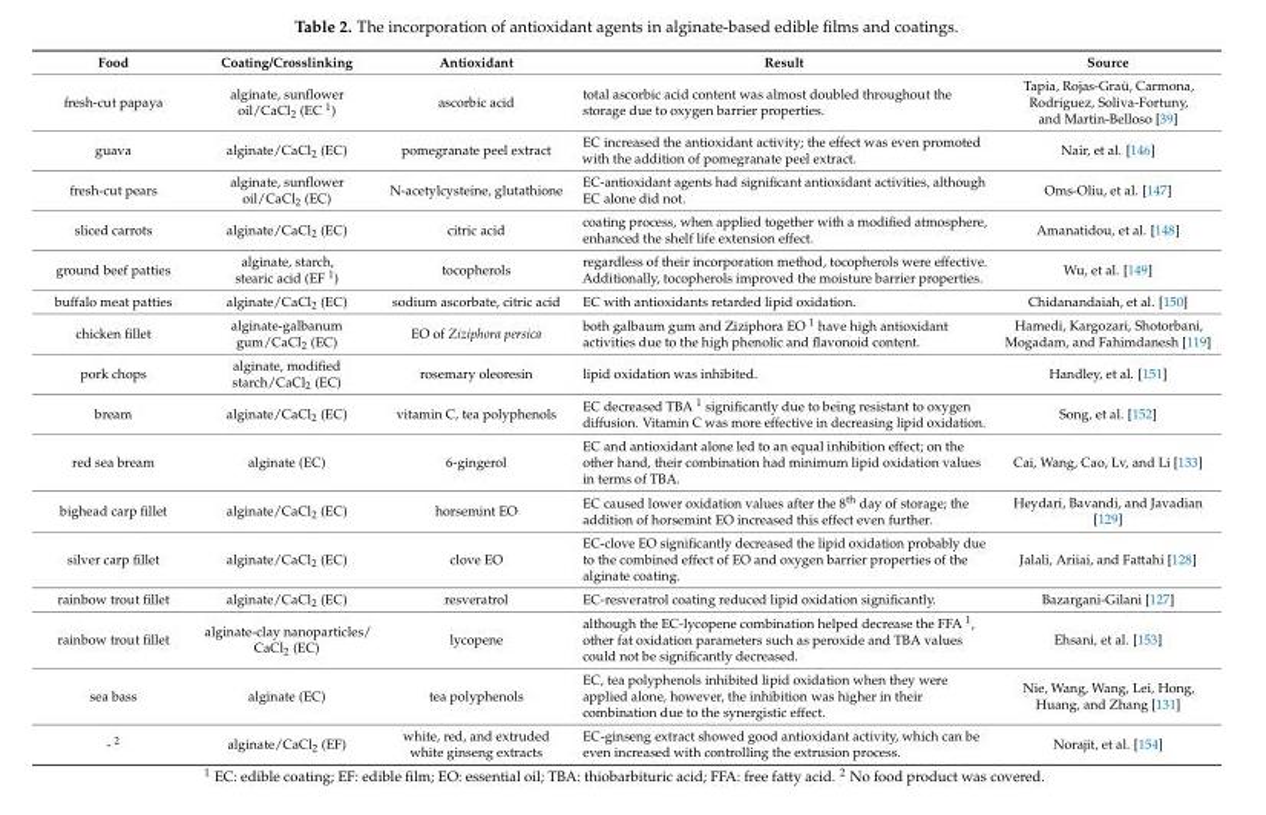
<table><thead><tr><td>Food</td><td>Coating/Crosslinking</td><td>Antioxidant</td><td>Result</td><td>Source</td></tr></thead><tbody><tr><td>fresh-cut papaya</td><td>alginate, sunflower oil/CaCl<sub>2</sub> (EC <sup>1</sup>)</td><td>ascorbic acid</td><td>total ascorbic acid content was almost doubled throughout the storage due to oxygen barrier properties.</td><td>Tapia, Rojas-Graü, Carmona, Rodríguez, Soliva-Fortuny, and Martin-Belloso [39]</td></tr><tr><td>guava</td><td>alginate/CaCl<sub>2</sub> (EC)</td><td>pomegranate peel extract</td><td>EC increased the antioxidant activity; the effect was even promoted with the addition of pomegranate peel extract.</td><td>Nair, et al. [146]</td></tr><tr><td>fresh-cut pears</td><td>alginate, sunflower oil/CaCl<sub>2</sub> (EC)</td><td>N-acetylcysteine, glutathione</td><td>EC-antioxidant agents had significant antioxidant activities, although EC alone did not.</td><td>Oms-Oliu, et al. [147]</td></tr><tr><td>sliced carrots</td><td>alginate/CaCl<sub>2</sub> (EC)</td><td>citric acid</td><td>coating process, when applied together with a modified atmosphere, enhanced the shelf life extension effect.</td><td>Amanatidou, et al. [148]</td></tr><tr><td>ground beef patties</td><td>alginate, starch, stearic acid (EF <sup>1</sup>)</td><td>tocopherols</td><td>regardless of their incorporation method, tocopherols were effective. Additionally, tocopherols improved the moisture barrier properties.</td><td>Wu, et al. [149]</td></tr><tr><td>buffalo meat patties</td><td>alginate/CaCl<sub>2</sub> (EC)</td><td>sodium ascorbate, citric acid</td><td>EC with antioxidants retarded lipid oxidation.</td><td>Chidanandaiah, et al. [150]</td></tr><tr><td>chicken fillet</td><td>alginate-galbanum gum/CaCl<sub>2</sub> (EC)</td><td>EO of Ziziphora persica</td><td>both galbaum gum and Ziziphora EO <sup>1</sup> have high antioxidant activities due to the high phenolic and flavonoid content.</td><td>Hamedi, Kargozari, Shotorbani, Mogadam, and Fahimdanesh [119]</td></tr><tr><td>pork chops</td><td>alginate, modified starch/CaCl<sub>2</sub> (EC)</td><td>rosemary oleoresin</td><td>lipid oxidation was inhibited.</td><td>Handley, et al. [151]</td></tr><tr><td>bream</td><td>alginate/CaCl<sub>2</sub> (EC)</td><td>vitamin C, tea polyphenols</td><td>EC decreased TBA <sup>1</sup> significantly due to being resistant to oxygen diffusion. Vitamin C was more effective in decreasing lipid oxidation.</td><td>Song, et al. [152]</td></tr><tr><td>red sea bream</td><td>alginate (EC)</td><td>6-gingerol</td><td>EC and antioxidant alone led to an equal inhibition effect; on the other hand, their combination had minimum lipid oxidation values in terms of TBA.</td><td>Cai, Wang, Cao, Lv, and Li [133]</td></tr><tr><td>bighead carp fillet</td><td>alginate/CaCl<sub>2</sub> (EC)</td><td>horsemint EO</td><td>EC caused lower oxidation values after the 8<sup>th</sup> day of storage; the addition of horsemint EO increased this effect even further.</td><td>Heydari, Bavandi, and Javadian [129]</td></tr><tr><td>silver carp fillet</td><td>alginate/CaCl<sub>2</sub> (EC)</td><td>clove EO</td><td>EC-clove EO significantly decreased the lipid oxidation probably due to the combined effect of EO and oxygen barrier properties of the alginate coating.</td><td>Jalali, Ariiai, and Fattahi [128]</td></tr><tr><td>rainbow trout fillet</td><td>alginate/CaCl<sub>2</sub> (EC)</td><td>resveratrol</td><td>EC-resveratrol coating reduced lipid oxidation significantly.</td><td>Bazargani-Gilani [127]</td></tr><tr><td>rainbow trout fillet</td><td>alginate-clay nanoparticles/ CaCl<sub>2</sub> (EC)</td><td>lycopene</td><td>although the EC-lycopene combination helped decrease the FFA <sup>1</sup>, other fat oxidation parameters such as peroxide and TBA values could not be significantly decreased.</td><td>Ehsani, et al. [153]</td></tr><tr><td>sea bass</td><td>alginate (EC)</td><td>tea polyphenols</td><td>EC, tea polyphenols inhibited lipid oxidation when they were applied alone, however, the inhibition was higher in their combination due to the synergistic effect.</td><td>Nie, Wang, Wang, Lei, Hong, Huang, and Zhang [131]</td></tr><tr><td>- <sup>2</sup></td><td>alginate/CaCl<sub>2</sub> (EF)</td><td>white, red, and extruded white ginseng extracts</td><td>EC-ginseng extract showed good antioxidant activity, which can be even increased with controlling the extrusion process.</td><td>Norajit, et al. [154]</td></tr></tbody></table>